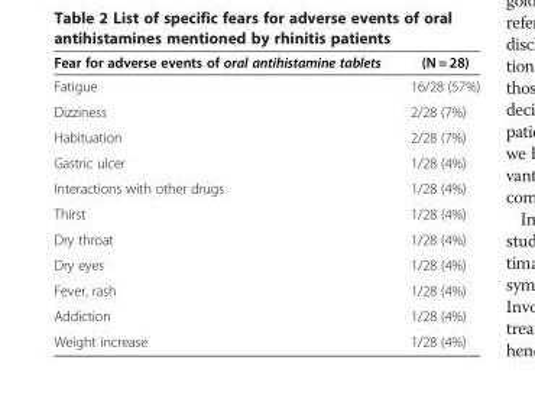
<table><thead><tr><td>Fear for adverse events of oral antihistamine tablets</td><td>(N = 28)</td></tr></thead><tbody><tr><td>Fatigue</td><td>16/28 (57%)</td></tr><tr><td>Dizziness</td><td>2/28 (7%)</td></tr><tr><td>Habituation</td><td>2/28 (7%)</td></tr><tr><td>Gastric ulcer</td><td>1/28 (4%)</td></tr><tr><td>Interactions with other drugs</td><td>1/28 (4%)</td></tr><tr><td>Thirst</td><td>1/28 (4%)</td></tr><tr><td>Dry throat</td><td>1/28 (4%)</td></tr><tr><td>Dry eyes</td><td>1/28 (4%)</td></tr><tr><td>Fever, rash</td><td>1/28 (4%)</td></tr><tr><td>Addiction</td><td>1/28 (4%)</td></tr><tr><td>Weight increase</td><td>1/28 (4%)</td></tr></tbody></table>